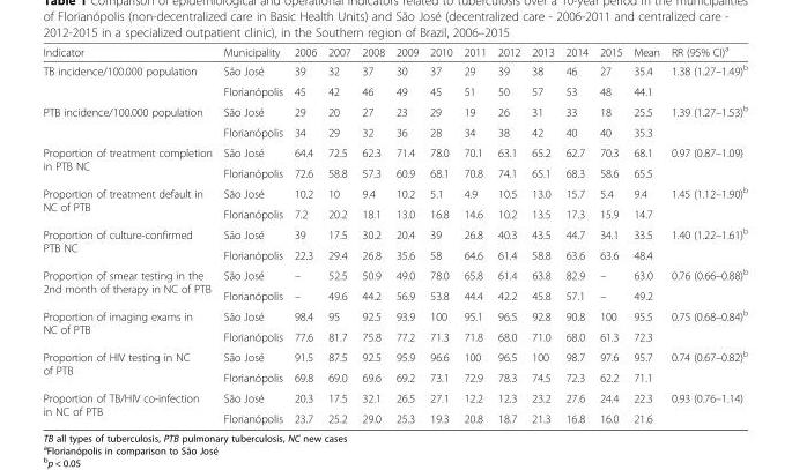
<table><thead><tr><td>Indicator</td><td>Municipality</td><td>2006</td><td>2007</td><td>2008</td><td>2009</td><td>2010</td><td>2011</td><td>2012</td><td>2013</td><td>2014</td><td>2015</td><td>Mean</td><td>RR (95% CI)<sup>a</sup></td></tr></thead><tbody><tr><td rowspan="2">TB incidence/100.000 population</td><td>São José</td><td>39</td><td>32</td><td>37</td><td>30</td><td>37</td><td>29</td><td>39</td><td>38</td><td>46</td><td>27</td><td>35.4</td><td rowspan="2">1.38 (1.27–1.49)<sup>b</sup></td></tr><tr><td>Florianópolis</td><td>45</td><td>42</td><td>46</td><td>49</td><td>45</td><td>51</td><td>50</td><td>57</td><td>53</td><td>48</td><td>44.1</td></tr><tr><td rowspan="2">PTB incidence/100.000 population</td><td>São José</td><td>29</td><td>20</td><td>27</td><td>23</td><td>29</td><td>19</td><td>26</td><td>31</td><td>33</td><td>18</td><td>25.5</td><td rowspan="2">1.39 (1.27–1.53)<sup>b</sup></td></tr><tr><td>Florianópolis</td><td>34</td><td>29</td><td>32</td><td>36</td><td>28</td><td>34</td><td>38</td><td>42</td><td>40</td><td>40</td><td>35.3</td></tr><tr><td rowspan="2">Proportion of treatment completion in PTB NC</td><td>São José</td><td>64.4</td><td>72.5</td><td>62.3</td><td>71.4</td><td>78.0</td><td>70.1</td><td>63.1</td><td>65.2</td><td>62.7</td><td>70.3</td><td>68.1</td><td rowspan="2">0.97 (0.87–1.09)</td></tr><tr><td>Florianópolis</td><td>72.6</td><td>58.8</td><td>57.3</td><td>60.9</td><td>68.1</td><td>70.8</td><td>74.1</td><td>65.1</td><td>68.3</td><td>58.6</td><td>65.5</td></tr><tr><td rowspan="2">Proportion of treatment default in NC of PTB</td><td>São José</td><td>10.2</td><td>10</td><td>9.4</td><td>10.2</td><td>5.1</td><td>4.9</td><td>10.5</td><td>13.0</td><td>15.7</td><td>5.4</td><td>9.4</td><td rowspan="2">1.45 (1.12–1.90)<sup>b</sup></td></tr><tr><td>Florianópolis</td><td>7.2</td><td>20.2</td><td>18.1</td><td>13.0</td><td>16.8</td><td>14.6</td><td>10.2</td><td>13.5</td><td>17.3</td><td>15.9</td><td>14.7</td></tr><tr><td rowspan="2">Proportion of culture-confirmed PTB NC</td><td>São José</td><td>39</td><td>17.5</td><td>30.2</td><td>20.4</td><td>39</td><td>26.8</td><td>40.3</td><td>43.5</td><td>44.7</td><td>34.1</td><td>33.5</td><td rowspan="2">1.40 (1.22–1.61)<sup>b</sup></td></tr><tr><td>Florianópolis</td><td>22.3</td><td>29.4</td><td>26.8</td><td>35.6</td><td>58</td><td>64.6</td><td>61.4</td><td>58.8</td><td>63.6</td><td>63.6</td><td>48.4</td></tr><tr><td rowspan="2">Proportion of smear testing in the 2nd month of therapy in NC of PTB</td><td>São José</td><td>–</td><td>52.5</td><td>50.9</td><td>49.0</td><td>78.0</td><td>65.8</td><td>61.4</td><td>63.8</td><td>82.9</td><td>–</td><td>63.0</td><td rowspan="2">0.76 (0.66–0.88)<sup>b</sup></td></tr><tr><td>Florianópolis</td><td>–</td><td>49.6</td><td>44.2</td><td>56.9</td><td>53.8</td><td>44.4</td><td>42.2</td><td>45.8</td><td>57.1</td><td>–</td><td>49.2</td></tr><tr><td rowspan="2">Proportion of imaging exams in NC of PTB</td><td>São José</td><td>98.4</td><td>95</td><td>92.5</td><td>93.9</td><td>100</td><td>95.1</td><td>96.5</td><td>92.8</td><td>90.8</td><td>100</td><td>95.5</td><td rowspan="2">0.75 (0.68–0.84)<sup>b</sup></td></tr><tr><td>Florianópolis</td><td>77.6</td><td>81.7</td><td>75.8</td><td>77.2</td><td>71.3</td><td>71.8</td><td>68.0</td><td>71.0</td><td>68.0</td><td>61.3</td><td>72.3</td></tr><tr><td rowspan="2">Proportion of HIV testing in NC of PTB</td><td>São José</td><td>91.5</td><td>87.5</td><td>92.5</td><td>95.9</td><td>96.6</td><td>100</td><td>96.5</td><td>100</td><td>98.7</td><td>97.6</td><td>95.7</td><td rowspan="2">0.74 (0.67–0.82)<sup>b</sup></td></tr><tr><td>Florianópolis</td><td>69.8</td><td>69.0</td><td>69.6</td><td>69.2</td><td>73.1</td><td>72.9</td><td>78.3</td><td>74.5</td><td>72.3</td><td>62.2</td><td>71.1</td></tr><tr><td rowspan="2">Proportion of TB/HIV co-infection in NC of PTB</td><td>São José</td><td>20.3</td><td>17.5</td><td>32.1</td><td>26.5</td><td>27.1</td><td>12.2</td><td>12.3</td><td>23.2</td><td>27.6</td><td>24.4</td><td>22.3</td><td rowspan="2">0.93 (0.76–1.14)</td></tr><tr><td>Florianópolis</td><td>23.7</td><td>25.2</td><td>29.0</td><td>25.3</td><td>19.3</td><td>20.8</td><td>18.7</td><td>21.3</td><td>16.8</td><td>16.0</td><td>21.6</td></tr></tbody></table>